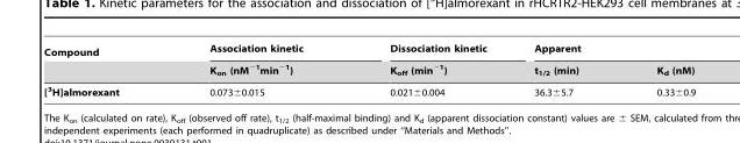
<table><thead><tr><td rowspan="2">Compound</td><td rowspan="2">Association kinetic K<sub>on</sub> (nM<sup>−1</sup>min<sup>−1</sup>)</td><td rowspan="2">Dissociation kinetic K<sub>off</sub> (min<sup>−1</sup>)</td><td colspan="2">Apparent</td></tr><tr><td>t<sub>1/2</sub> (min)</td><td>K<sub>d</sub> (nM)</td></tr></thead><tbody><tr><td>[<sup>3</sup>H]almorexant</td><td>0.073±0.015</td><td>0.021±0.004</td><td>36.3±5.7</td><td>0.33±0.9</td></tr></tbody></table>